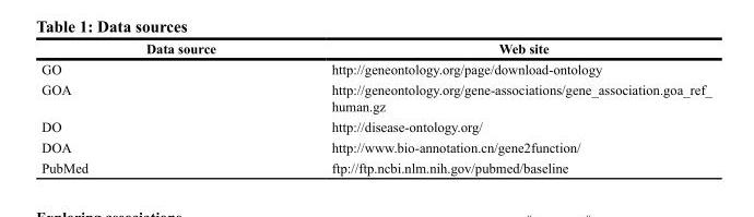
<table><thead><tr><td>Data source</td><td>Web site</td></tr></thead><tbody><tr><td>GO</td><td>http://geneontology.org/page/download-ontology</td></tr><tr><td>GOA</td><td>http://geneontology.org/gene-associations/gene_association.goa_ref_ human.gz</td></tr><tr><td>DO</td><td>http://disease-ontology.org/</td></tr><tr><td>DOA</td><td>http://www.bio-annotation.cn/gene2function/</td></tr><tr><td>PubMed</td><td>ftp://ftp.ncbi.nlm.nih.gov/pubmed/baseline</td></tr></tbody></table>